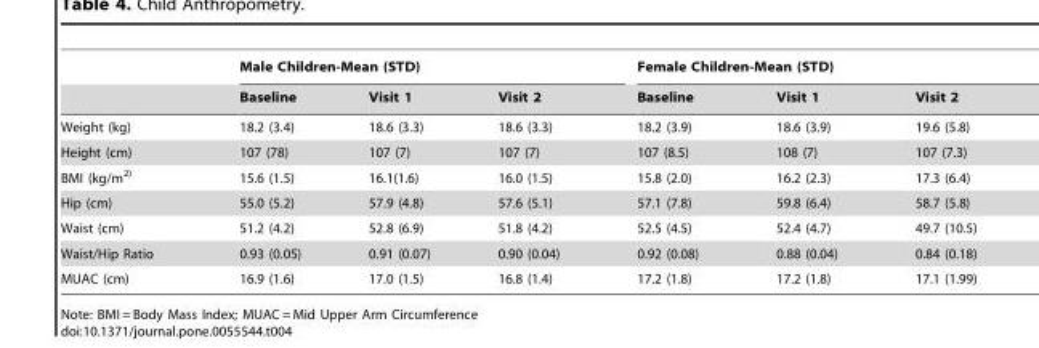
<table><thead><tr><td rowspan="2"></td><td colspan="3">Male Children-Mean (STD)</td><td colspan="3">Female Children-Mean (STD)</td></tr><tr><td>Baseline</td><td>Visit 1</td><td>Visit 2</td><td>Baseline</td><td>Visit 1</td><td>Visit 2</td></tr></thead><tbody><tr><td>Weight (kg)</td><td>18.2 (3.4)</td><td>18.6 (3.3)</td><td>18.6 (3.3)</td><td>18.2 (3.9)</td><td>18.6 (3.9)</td><td>19.6 (5.8)</td></tr><tr><td>Height (cm)</td><td>107 (78)</td><td>107 (7)</td><td>107 (7)</td><td>107 (8.5)</td><td>108 (7)</td><td>107 (7.3)</td></tr><tr><td>BMI (kg/m<sup>2)</sup></td><td>15.6 (1.5)</td><td>16.1(1.6)</td><td>16.0 (1.5)</td><td>15.8 (2.0)</td><td>16.2 (2.3)</td><td>17.3 (6.4)</td></tr><tr><td>Hip (cm)</td><td>55.0 (5.2)</td><td>57.9 (4.8)</td><td>57.6 (5.1)</td><td>57.1 (7.8)</td><td>59.8 (6.4)</td><td>58.7 (5.8)</td></tr><tr><td>Waist (cm)</td><td>51.2 (4.2)</td><td>52.8 (6.9)</td><td>51.8 (4.2)</td><td>52.5 (4.5)</td><td>52.4 (4.7)</td><td>49.7 (10.5)</td></tr><tr><td>Waist/Hip Ratio</td><td>0.93 (0.05)</td><td>0.91 (0.07)</td><td>0.90 (0.04)</td><td>0.92 (0.08)</td><td>0.88 (0.04)</td><td>0.84 (0.18)</td></tr><tr><td>MUAC (cm)</td><td>16.9 (1.6)</td><td>17.0 (1.5)</td><td>16.8 (1.4)</td><td>17.2 (1.8)</td><td>17.2 (1.8)</td><td>17.1 (1.99)</td></tr></tbody></table>